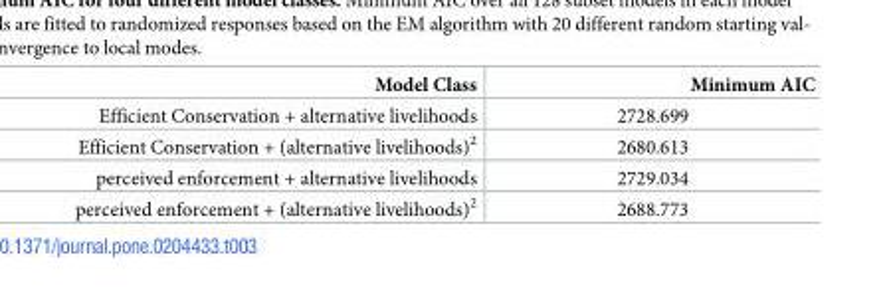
<table><thead><tr><td>Model Class</td><td>Minimum AIC</td></tr></thead><tbody><tr><td>Efficient Conservation + alternative livelihoods</td><td>2728.699</td></tr><tr><td>Efficient Conservation + (alternative livelihoods)<sup>2</sup></td><td>2680.613</td></tr><tr><td>perceived enforcement + alternative livelihoods</td><td>2729.034</td></tr><tr><td>perceived enforcement + (alternative livelihoods)<sup>2</sup></td><td>2688.773</td></tr></tbody></table>